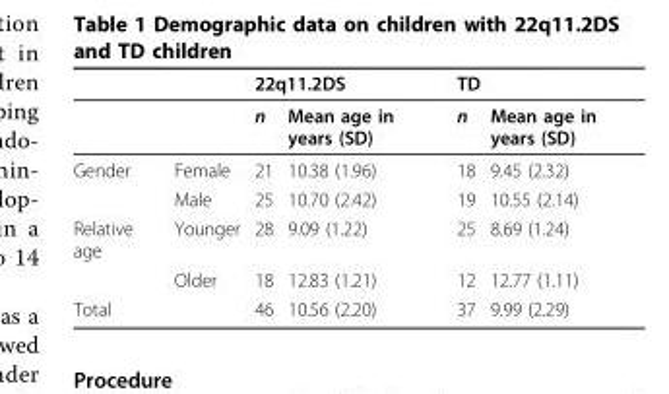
<table><thead><tr><td rowspan="2"></td><td rowspan="2"></td><td colspan="2">22q11.2DS</td><td colspan="2">TD</td></tr><tr><td>n</td><td>Mean age in years (SD)</td><td>n</td><td>Mean age in years (SD)</td></tr></thead><tbody><tr><td rowspan="2">Gender</td><td>Female</td><td>21</td><td>10.38 (1.96)</td><td>18</td><td>9.45 (2.32)</td></tr><tr><td>Male</td><td>25</td><td>10.70 (2.42)</td><td>19</td><td>10.55 (2.14)</td></tr><tr><td rowspan="2">Relative age</td><td>Younger</td><td>28</td><td>9.09 (1.22)</td><td>25</td><td>8.69 (1.24)</td></tr><tr><td>Older</td><td>18</td><td>12.83 (1.21)</td><td>12</td><td>12.77 (1.11)</td></tr><tr><td>Total</td><td></td><td>46</td><td>10.56 (2.20)</td><td>37</td><td>9.99 (2.29)</td></tr></tbody></table>